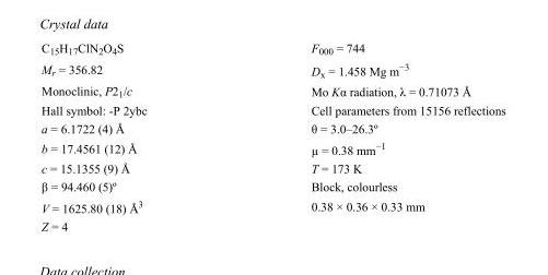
<table><tbody><tr><td>C<sub>15</sub>H<sub>17</sub>ClN<sub>2</sub>O<sub>4</sub>S</td><td>F000 = 744</td></tr><tr><td>M<sub>r</sub> = 356.82</td><td>D<sub>x</sub> = 1.458 Mg m<sup>−3</sup></td></tr><tr><td>Monoclinic, P2<sub>1</sub>/c</td><td>Mo Kα radiation, λ = 0.71073 Å</td></tr><tr><td>Hall symbol: -P 2ybc</td><td>Cell parameters from 15156 reflections</td></tr><tr><td>a = 6.1722 (4) Å</td><td>θ = 3.0–26.3º</td></tr><tr><td>b = 17.4561 (12) Å</td><td>µ = 0.38 mm<sup>−1</sup></td></tr><tr><td>c = 15.1355 (9) Å</td><td>T = 173 K</td></tr><tr><td>β = 94.460 (5)º</td><td>Block, colourless</td></tr><tr><td>V = 1625.80 (18) Å<sup>3</sup></td><td>0.38 × 0.36 × 0.33 mm</td></tr><tr><td>Z = 4</td><td></td></tr></tbody></table>